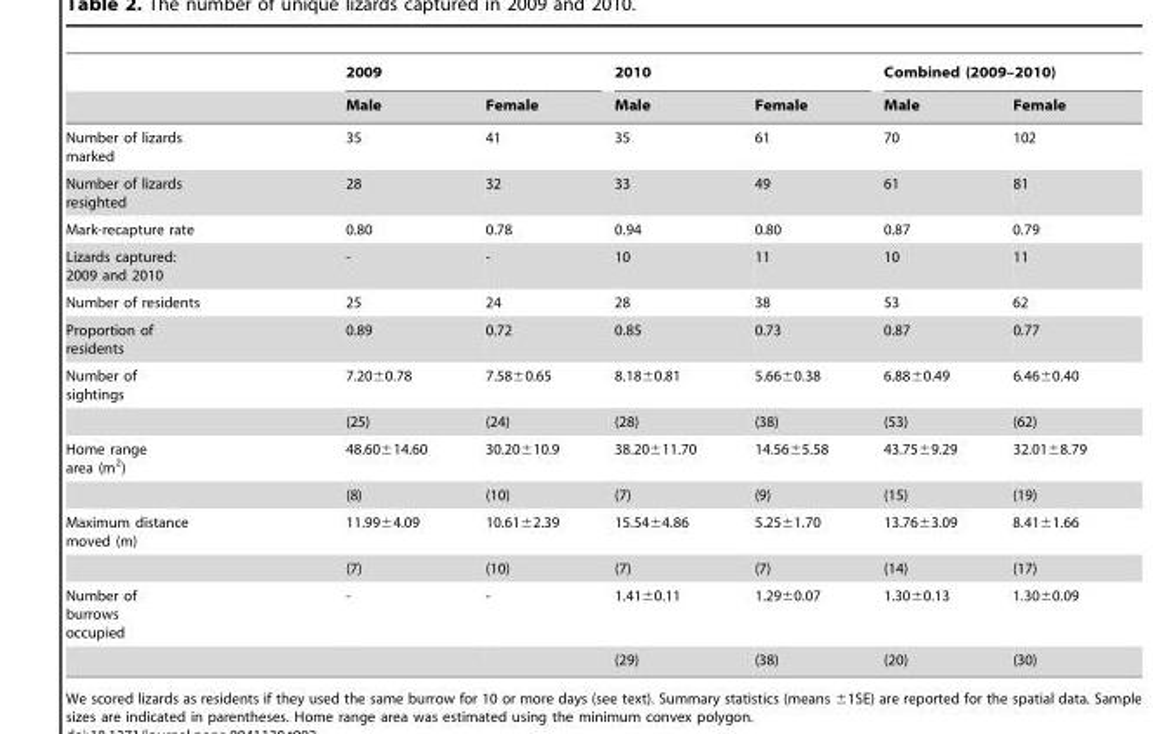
<table><thead><tr><td rowspan="2"></td><td colspan="2">2009</td><td colspan="2">2010</td><td colspan="2">Combined (2009–2010)</td></tr><tr><td>Male</td><td>Female</td><td>Male</td><td>Female</td><td>Male</td><td>Female</td></tr></thead><tbody><tr><td>Number of lizards marked</td><td>35</td><td>41</td><td>35</td><td>61</td><td>70</td><td>102</td></tr><tr><td>Number of lizards resighted</td><td>28</td><td>32</td><td>33</td><td>49</td><td>61</td><td>81</td></tr><tr><td>Mark-recapture rate</td><td>0.80</td><td>0.78</td><td>0.94</td><td>0.80</td><td>0.87</td><td>0.79</td></tr><tr><td>Lizards captured: 2009 and 2010</td><td>-</td><td>-</td><td>10</td><td>11</td><td>10</td><td>11</td></tr><tr><td>Number of residents</td><td>25</td><td>24</td><td>28</td><td>38</td><td>53</td><td>62</td></tr><tr><td>Proportion of residents</td><td>0.89</td><td>0.72</td><td>0.85</td><td>0.73</td><td>0.87</td><td>0.77</td></tr><tr><td rowspan="2">Number of sightings</td><td>7.20±0.78</td><td>7.58±0.65</td><td>8.18±0.81</td><td>5.66±0.38</td><td>6.88±0.49</td><td>6.46±0.40</td></tr><tr><td>(25)</td><td>(24)</td><td>(28)</td><td>(38)</td><td>(53)</td><td>(62)</td></tr><tr><td rowspan="2">Home range area (m<sup>2</sup>)</td><td>48.60±14.60</td><td>30.20±10.9</td><td>38.20±11.70</td><td>14.56±5.58</td><td>43.75±9.29</td><td>32.01±8.79</td></tr><tr><td>(8)</td><td>(10)</td><td>(7)</td><td>(9)</td><td>(15)</td><td>(19)</td></tr><tr><td rowspan="2">Maximum distance moved (m)</td><td>11.99±4.09</td><td>10.61±2.39</td><td>15.54±4.86</td><td>5.25±1.70</td><td>13.76±3.09</td><td>8.41±1.66</td></tr><tr><td>(7)</td><td>(10)</td><td>(7)</td><td>(7)</td><td>(14)</td><td>(17)</td></tr><tr><td rowspan="2">Number of burrows occupied</td><td>-</td><td>-</td><td>1.41±0.11</td><td>1.29±0.07</td><td>1.30±0.13</td><td>1.30±0.09</td></tr><tr><td></td><td></td><td>(29)</td><td>(38)</td><td>(20)</td><td>(30)</td></tr></tbody></table>